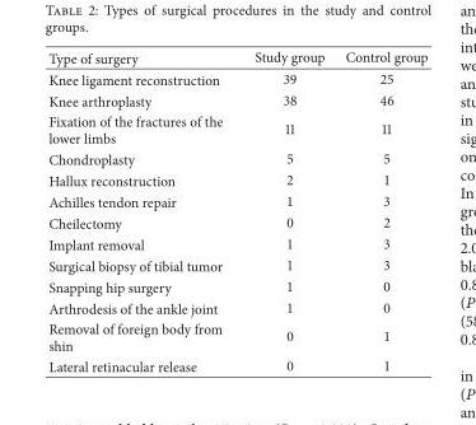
<table><thead><tr><td>Type of surgery</td><td>Study group</td><td>Control group</td></tr></thead><tbody><tr><td>Knee ligament reconstruction</td><td>39</td><td>25</td></tr><tr><td>Knee arthroplasty</td><td>38</td><td>46</td></tr><tr><td>Fixation of the fractures of the lower limbs</td><td>11</td><td>11</td></tr><tr><td>Chondroplasty</td><td>5</td><td>5</td></tr><tr><td>Hallux reconstruction</td><td>2</td><td>1</td></tr><tr><td>Achilles tendon repair</td><td>1</td><td>3</td></tr><tr><td>Cheilectomy</td><td>0</td><td>2</td></tr><tr><td>Implant removal</td><td>1</td><td>3</td></tr><tr><td>Surgical biopsy of tibial tumor</td><td>1</td><td>3</td></tr><tr><td>Snapping hip surgery</td><td>1</td><td>0</td></tr><tr><td>Arthrodesis of the ankle joint</td><td>1</td><td>0</td></tr><tr><td>Removal of foreign body from shin</td><td>0</td><td>1</td></tr><tr><td>Lateral retinacular release</td><td>0</td><td>1</td></tr></tbody></table>